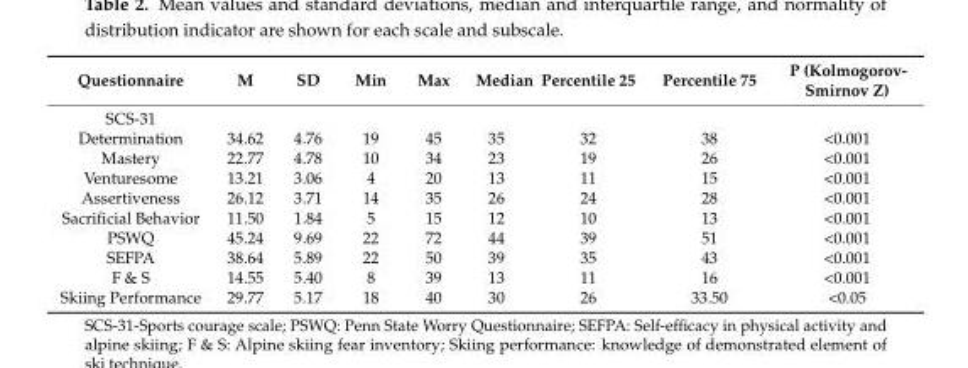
<table><thead><tr><td>Questionnaire</td><td>M</td><td>SD</td><td>Min</td><td>Max</td><td>Median</td><td>Percentile 25</td><td>Percentile 75</td><td>P (Kolmogorov- Smirnov Z)</td></tr></thead><tbody><tr><td colspan="9">SCS-31</td></tr><tr><td>Determination</td><td>34.62</td><td>4.76</td><td>19</td><td>45</td><td>35</td><td>32</td><td>38</td><td>&lt;0.001</td></tr><tr><td>Mastery</td><td>22.77</td><td>4.78</td><td>10</td><td>34</td><td>23</td><td>19</td><td>26</td><td>&lt;0.001</td></tr><tr><td>Venturesome</td><td>13.21</td><td>3.06</td><td>4</td><td>20</td><td>13</td><td>11</td><td>15</td><td>&lt;0.001</td></tr><tr><td>Assertiveness</td><td>26.12</td><td>3.71</td><td>14</td><td>35</td><td>26</td><td>24</td><td>28</td><td>&lt;0.001</td></tr><tr><td>Sacrificial Behavior</td><td>11.50</td><td>1.84</td><td>5</td><td>15</td><td>12</td><td>10</td><td>13</td><td>&lt;0.001</td></tr><tr><td>PSWQ</td><td>45.24</td><td>9.69</td><td>22</td><td>72</td><td>44</td><td>39</td><td>51</td><td>&lt;0.001</td></tr><tr><td>SEFPA</td><td>38.64</td><td>5.89</td><td>22</td><td>50</td><td>39</td><td>35</td><td>43</td><td>&lt;0.001</td></tr><tr><td>F &amp; S</td><td>14.55</td><td>5.40</td><td>8</td><td>39</td><td>13</td><td>11</td><td>16</td><td>&lt;0.001</td></tr><tr><td>Skiing Performance</td><td>29.77</td><td>5.17</td><td>18</td><td>40</td><td>30</td><td>26</td><td>33.50</td><td>&lt;0.05</td></tr></tbody></table>